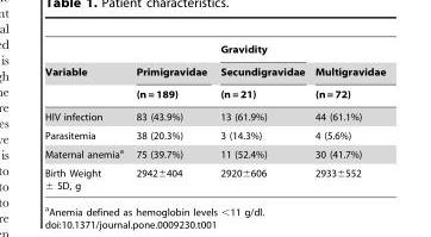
<table><thead><tr><td rowspan="3">Variable</td><td rowspan="3">Primigravidae (n = 189)</td><td rowspan="3">Gravidity Secundigravidae (n = 21)</td><td rowspan="3">Multigravidae (n = 72)</td></tr><tr></tr><tr></tr></thead><tbody><tr><td>HIV infection</td><td>83 (43.9%)</td><td>13 (61.9%)</td><td>44 (61.1%)</td></tr><tr><td>Parasitemia</td><td>38 (20.3%)</td><td>3 (14.3%)</td><td>4 (5.6%)</td></tr><tr><td>Maternal anemia<sup>a</sup></td><td>75 (39.7%)</td><td>11 (52.4%)</td><td>30 (41.7%)</td></tr><tr><td>Birth Weight ± SD, g</td><td>2942±404</td><td>2920±606</td><td>2933±552</td></tr></tbody></table>